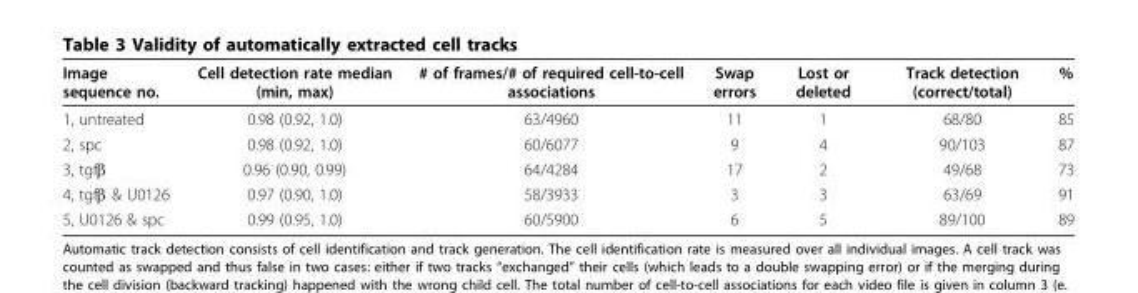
<table><thead><tr><td>Image sequence no.</td><td>Cell detection rate median (min, max)</td><td># of frames/# of required cell-to-cell associations</td><td>Swap errors</td><td>Lost or deleted</td><td>Track detection (correct/total)</td><td>%</td></tr></thead><tbody><tr><td>1, untreated</td><td>0.98 (0.92, 1.0)</td><td>63/4960</td><td>11</td><td>1</td><td>68/80</td><td>85</td></tr><tr><td>2, spc</td><td>0.98 (0.92, 1.0)</td><td>60/6077</td><td>9</td><td>4</td><td>90/103</td><td>87</td></tr><tr><td>3, tgfβ</td><td>0.96 (0.90, 0.99)</td><td>64/4284</td><td>17</td><td>2</td><td>49/68</td><td>73</td></tr><tr><td>4, tgfβ &amp; U0126</td><td>0.97 (0.90, 1.0)</td><td>58/3933</td><td>3</td><td>3</td><td>63/69</td><td>91</td></tr><tr><td>5, U0126 &amp; spc</td><td>0.99 (0.95, 1.0)</td><td>60/5900</td><td>6</td><td>5</td><td>89/100</td><td>89</td></tr></tbody></table>